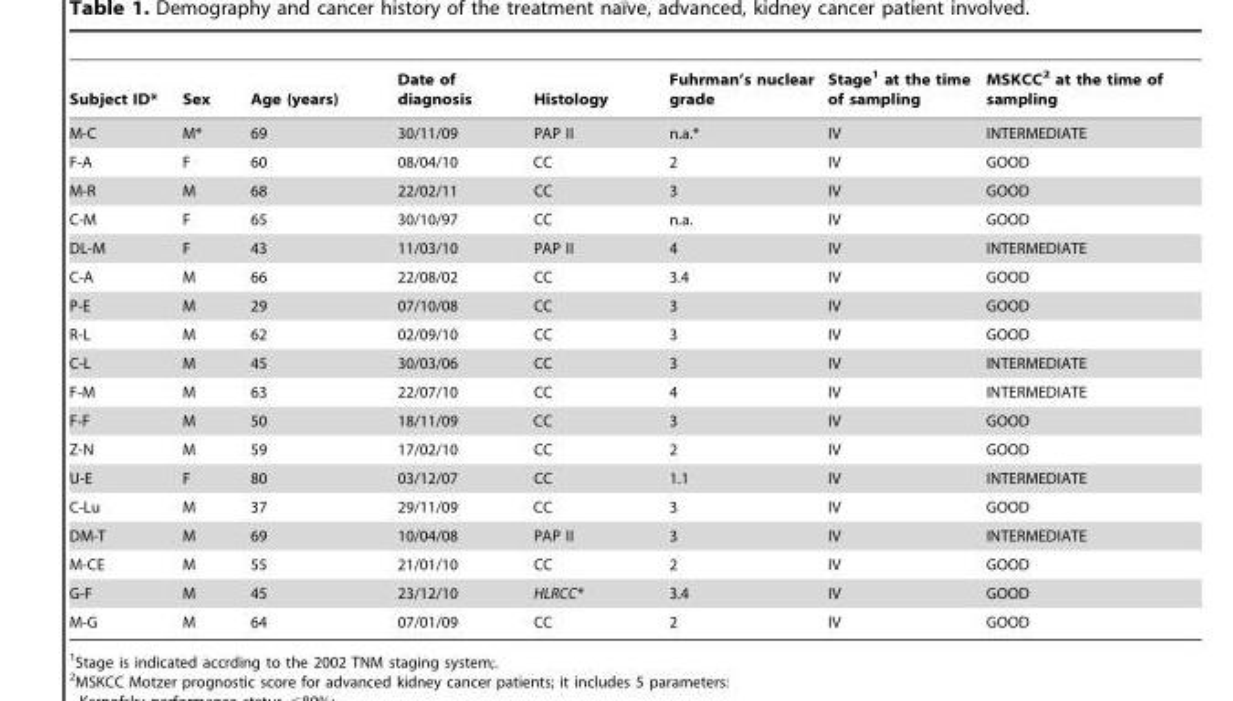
<table><thead><tr><td>Subject ID*</td><td>Sex</td><td>Age (years)</td><td>Date of diagnosis</td><td>Histology</td><td>Fuhrman’s nuclear grade</td><td>Stage<sup>1</sup> at the time of sampling</td><td>MSKCC<sup>2</sup> at the time of sampling</td></tr></thead><tbody><tr><td>M-C</td><td>M*</td><td>69</td><td>30/11/09</td><td>PAP II</td><td>n.a.*</td><td>IV</td><td>INTERMEDIATE</td></tr><tr><td>F-A</td><td>F</td><td>60</td><td>08/04/10</td><td>CC</td><td>2</td><td>IV</td><td>GOOD</td></tr><tr><td>M-R</td><td>M</td><td>68</td><td>22/02/11</td><td>CC</td><td>3</td><td>IV</td><td>GOOD</td></tr><tr><td>C-M</td><td>F</td><td>65</td><td>30/10/97</td><td>CC</td><td>n.a.</td><td>IV</td><td>GOOD</td></tr><tr><td>DL-M</td><td>F</td><td>43</td><td>11/03/10</td><td>PAP II</td><td>4</td><td>IV</td><td>INTERMEDIATE</td></tr><tr><td>C-A</td><td>M</td><td>66</td><td>22/08/02</td><td>CC</td><td>3.4</td><td>IV</td><td>GOOD</td></tr><tr><td>P-E</td><td>M</td><td>29</td><td>07/10/08</td><td>CC</td><td>3</td><td>IV</td><td>GOOD</td></tr><tr><td>R-L</td><td>M</td><td>62</td><td>02/09/10</td><td>CC</td><td>3</td><td>IV</td><td>GOOD</td></tr><tr><td>C-L</td><td>M</td><td>45</td><td>30/03/06</td><td>CC</td><td>3</td><td>IV</td><td>INTERMEDIATE</td></tr><tr><td>F-M</td><td>M</td><td>63</td><td>22/07/10</td><td>CC</td><td>4</td><td>IV</td><td>INTERMEDIATE</td></tr><tr><td>F-F</td><td>M</td><td>50</td><td>18/11/09</td><td>CC</td><td>3</td><td>IV</td><td>GOOD</td></tr><tr><td>Z-N</td><td>M</td><td>59</td><td>17/02/10</td><td>CC</td><td>2</td><td>IV</td><td>GOOD</td></tr><tr><td>U-E</td><td>F</td><td>80</td><td>03/12/07</td><td>CC</td><td>1.1</td><td>IV</td><td>INTERMEDIATE</td></tr><tr><td>C-Lu</td><td>M</td><td>37</td><td>29/11/09</td><td>CC</td><td>3</td><td>IV</td><td>GOOD</td></tr><tr><td>DM-T</td><td>M</td><td>69</td><td>10/04/08</td><td>PAP II</td><td>3</td><td>IV</td><td>INTERMEDIATE</td></tr><tr><td>M-CE</td><td>M</td><td>55</td><td>21/01/10</td><td>CC</td><td>2</td><td>IV</td><td>GOOD</td></tr><tr><td>G-F</td><td>M</td><td>45</td><td>23/12/10</td><td>HLRCC*</td><td>3.4</td><td>IV</td><td>GOOD</td></tr><tr><td>M-G</td><td>M</td><td>64</td><td>07/01/09</td><td>CC</td><td>2</td><td>IV</td><td>GOOD</td></tr></tbody></table>